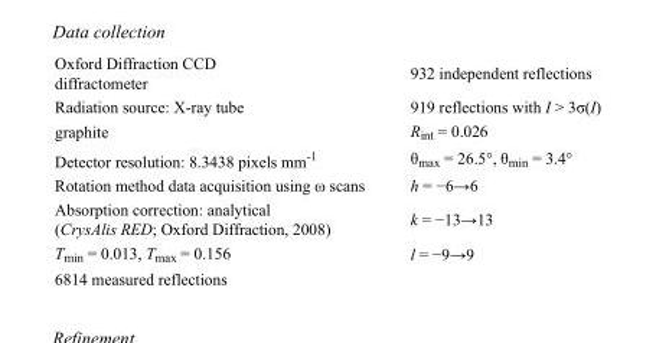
<table><tbody><tr><td>Oxford Diffraction CCD diffractometer</td><td>932 independent reflections</td></tr><tr><td>Radiation source: X-ray tube</td><td>919 reflections with I &gt; 3σ(I)</td></tr><tr><td>graphite</td><td>R<sub>int</sub> = 0.026</td></tr><tr><td>Detector resolution: 8.3438 pixels mm<sup>-1</sup></td><td>θ<sub>max</sub> = 26.5°, θ<sub>min</sub> = 3.4°</td></tr><tr><td>Rotation method data acquisition using ω scans</td><td>h = −6→6</td></tr><tr><td>Absorption correction: analytical (CrysAlis RED; Oxford Diffraction, 2008)</td><td>k = −13→13</td></tr><tr><td>T<sub>min</sub> = 0.013, T<sub>max</sub> = 0.156</td><td>l = −9→9</td></tr><tr><td>6814 measured reflections</td><td></td></tr></tbody></table>